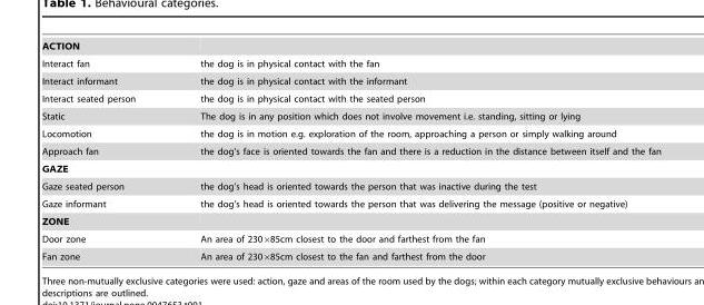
<table><tbody><tr><td colspan="2">ACTION</td></tr><tr><td>Interact fan</td><td>the dog is in physical contact with the fan</td></tr><tr><td>Interact informant</td><td>the dog is in physical contact with the informant</td></tr><tr><td>Interact seated person</td><td>the dog is in physical contact with the seated person</td></tr><tr><td>Static</td><td>The dog is in any position which does not involve movement i.e. standing, sitting or lying</td></tr><tr><td>Locomotion</td><td>the dog is in motion e.g. exploration of the room, approaching a person or simply walking around</td></tr><tr><td>Approach fan</td><td>the dog’s face is oriented towards the fan and there is a reduction in the distance between itself and the fan</td></tr><tr><td colspan="2">GAZE</td></tr><tr><td>Gaze seated person</td><td>the dog’s head is oriented towards the person that was inactive during the test</td></tr><tr><td>Gaze informant</td><td>the dog’s head is oriented towards the person that was delivering the message (positive or negative)</td></tr><tr><td colspan="2">ZONE</td></tr><tr><td>Door zone</td><td>An area of 230×85cm closest to the door and farthest from the fan</td></tr><tr><td>Fan zone</td><td>An area of 230×85cm closest to the fan and farthest from the door</td></tr></tbody></table>